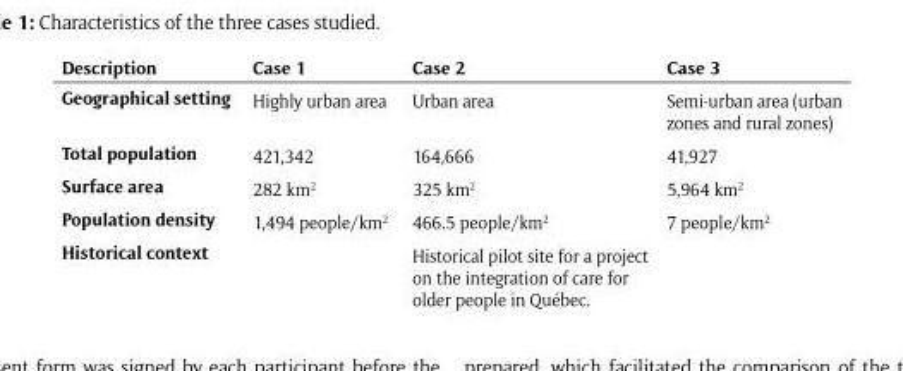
<table><thead><tr><td>Description</td><td>Case 1</td><td>Case 2</td><td>Case 3</td></tr></thead><tbody><tr><td>Geographical setting</td><td>Highly urban area</td><td>Urban area</td><td>Semi-urban area (urban zones and rural zones)</td></tr><tr><td>Total population</td><td>421,342</td><td>164,666</td><td>41,927</td></tr><tr><td>Surface area</td><td>282 km<sup>2</sup></td><td>325 km<sup>2</sup></td><td>5,964 km<sup>2</sup></td></tr><tr><td>Population density</td><td>1,494 people/km<sup>2</sup></td><td>466.5 people/km<sup>2</sup></td><td>7 people/km<sup>2</sup></td></tr><tr><td>Historical context</td><td></td><td>Historical pilot site for a project on the integration of care for older people in Québec.</td><td></td></tr></tbody></table>